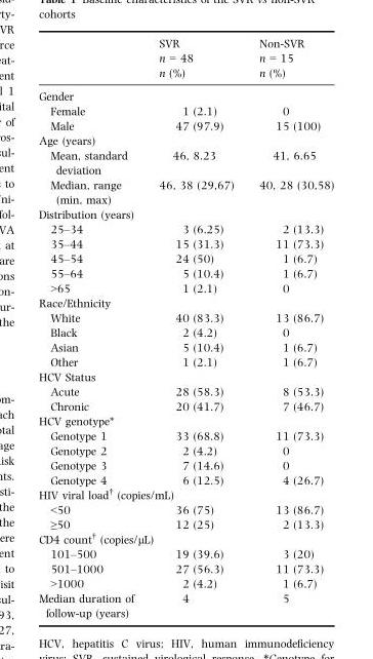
<table><thead><tr><td rowspan="2"></td><td rowspan="2">SVR n = 48 n (%)</td><td rowspan="2">Non-SVR n = 15 n (%)</td></tr><tr></tr></thead><tbody><tr><td colspan="3">Gender</td></tr><tr><td>Female</td><td>1 (2.1)</td><td>0</td></tr><tr><td>Male</td><td>47 (97.9)</td><td>15 (100)</td></tr><tr><td colspan="3">Age (years)</td></tr><tr><td>Mean, standard deviation</td><td>46, 8.23</td><td>41, 6.65</td></tr><tr><td>Median, range (min, max)</td><td>46, 38 (29,67)</td><td>40, 28 (30,58)</td></tr><tr><td colspan="3">Distribution (years)</td></tr><tr><td>25–34</td><td>3 (6.25)</td><td>2 (13.3)</td></tr><tr><td>35–44</td><td>15 (31.3)</td><td>11 (73.3)</td></tr><tr><td>45–54</td><td>24 (50)</td><td>1 (6.7)</td></tr><tr><td>55–64</td><td>5 (10.4)</td><td>1 (6.7)</td></tr><tr><td>&gt;65</td><td>1 (2.1)</td><td>0</td></tr><tr><td colspan="3">Race/Ethnicity</td></tr><tr><td>White</td><td>40 (83.3)</td><td>13 (86.7)</td></tr><tr><td>Black</td><td>2 (4.2)</td><td>0</td></tr><tr><td>Asian</td><td>5 (10.4)</td><td>1 (6.7)</td></tr><tr><td>Other</td><td>1 (2.1)</td><td>1 (6.7)</td></tr><tr><td colspan="3">HCV Status</td></tr><tr><td>Acute</td><td>28 (58.3)</td><td>8 (53.3)</td></tr><tr><td>Chronic</td><td>20 (41.7)</td><td>7 (46.7)</td></tr><tr><td colspan="3">HCV genotype*</td></tr><tr><td>Genotype 1</td><td>33 (68.8)</td><td>11 (73.3)</td></tr><tr><td>Genotype 2</td><td>2 (4.2)</td><td>0</td></tr><tr><td>Genotype 3</td><td>7 (14.6)</td><td>0</td></tr><tr><td>Genotype 4</td><td>6 (12.5)</td><td>4 (26.7)</td></tr><tr><td colspan="3">HIV viral load† (copies/mL)</td></tr><tr><td>&lt;50</td><td>36 (75)</td><td>13 (86.7)</td></tr><tr><td>≥50</td><td>12 (25)</td><td>2 (13.3)</td></tr><tr><td colspan="3">CD4 count† (copies/μL)</td></tr><tr><td>101–500</td><td>19 (39.6)</td><td>3 (20)</td></tr><tr><td>501–1000</td><td>27 (56.3)</td><td>11 (73.3)</td></tr><tr><td>&gt;1000</td><td>2 (4.2)</td><td>1 (6.7)</td></tr><tr><td>Median duration of follow-up (years)</td><td>4</td><td>5</td></tr></tbody></table>